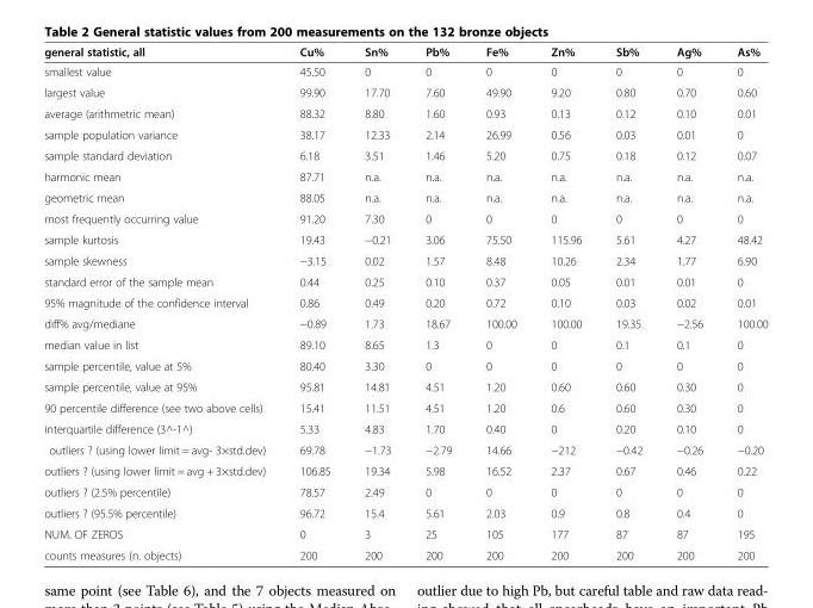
<table><thead><tr><td>general statistic, all</td><td>Cu%</td><td>Sn%</td><td>Pb%</td><td>Fe%</td><td>Zn%</td><td>Sb%</td><td>Ag%</td><td>As%</td></tr></thead><tbody><tr><td>smallest value</td><td>45.50</td><td>0</td><td>0</td><td>0</td><td>0</td><td>0</td><td>0</td><td>0</td></tr><tr><td>largest value</td><td>99.90</td><td>17.70</td><td>7.60</td><td>49.90</td><td>9.20</td><td>0.80</td><td>0.70</td><td>0.60</td></tr><tr><td>average (arithmetric mean)</td><td>88.32</td><td>8.80</td><td>1.60</td><td>0.93</td><td>0.13</td><td>0.12</td><td>0.10</td><td>0.01</td></tr><tr><td>sample population variance</td><td>38.17</td><td>12.33</td><td>2.14</td><td>26.99</td><td>0.56</td><td>0.03</td><td>0.01</td><td>0</td></tr><tr><td>sample standard deviation</td><td>6.18</td><td>3.51</td><td>1.46</td><td>5.20</td><td>0.75</td><td>0.18</td><td>0.12</td><td>0.07</td></tr><tr><td>harmonic mean</td><td>87.71</td><td>n.a.</td><td>n.a.</td><td>n.a.</td><td>n.a.</td><td>n.a.</td><td>n.a.</td><td>n.a.</td></tr><tr><td>geometric mean</td><td>88.05</td><td>n.a.</td><td>n.a.</td><td>n.a.</td><td>n.a.</td><td>n.a.</td><td>n.a.</td><td>n.a.</td></tr><tr><td>most frequently occurring value</td><td>91.20</td><td>7.30</td><td>0</td><td>0</td><td>0</td><td>0</td><td>0</td><td>0</td></tr><tr><td>sample kurtosis</td><td>19.43</td><td>−0.21</td><td>3.06</td><td>75.50</td><td>115.96</td><td>5.61</td><td>4.27</td><td>48.42</td></tr><tr><td>sample skewness</td><td>−3.15</td><td>0.02</td><td>1.57</td><td>8.48</td><td>10.26</td><td>2.34</td><td>1.77</td><td>6.90</td></tr><tr><td>standard error of the sample mean</td><td>0.44</td><td>0.25</td><td>0.10</td><td>0.37</td><td>0.05</td><td>0.01</td><td>0.01</td><td>0</td></tr><tr><td>95% magnitude of the confidence interval</td><td>0.86</td><td>0.49</td><td>0.20</td><td>0.72</td><td>0.10</td><td>0.03</td><td>0.02</td><td>0.01</td></tr><tr><td>diff% avg/mediane</td><td>−0.89</td><td>1.73</td><td>18.67</td><td>100.00</td><td>100.00</td><td>19.35</td><td>−2.56</td><td>100.00</td></tr><tr><td>median value in list</td><td>89.10</td><td>8.65</td><td>1.3</td><td>0</td><td>0</td><td>0.1</td><td>0.1</td><td>0</td></tr><tr><td>sample percentile, value at 5%</td><td>80.40</td><td>3.30</td><td>0</td><td>0</td><td>0</td><td>0</td><td>0</td><td>0</td></tr><tr><td>sample percentile, value at 95%</td><td>95.81</td><td>14.81</td><td>4.51</td><td>1.20</td><td>0.60</td><td>0.60</td><td>0.30</td><td>0</td></tr><tr><td>90 percentile difference (see two above cells)</td><td>15.41</td><td>11.51</td><td>4.51</td><td>1.20</td><td>0.6</td><td>0.60</td><td>0.30</td><td>0</td></tr><tr><td>interquartile difference (3^-1^)</td><td>5.33</td><td>4.83</td><td>1.70</td><td>0.40</td><td>0</td><td>0.20</td><td>0.10</td><td>0</td></tr><tr><td>outliers ? (using lower limit = avg- 3×std.dev)</td><td>69.78</td><td>−1.73</td><td>−2.79</td><td>14.66</td><td>−212</td><td>−0.42</td><td>−0.26</td><td>−0.20</td></tr><tr><td>outliers ? (using lower limit = avg + 3×std.dev)</td><td>106.85</td><td>19.34</td><td>5.98</td><td>16.52</td><td>2.37</td><td>0.67</td><td>0.46</td><td>0.22</td></tr><tr><td>outliers ? (2.5% percentile)</td><td>78.57</td><td>2.49</td><td>0</td><td>0</td><td>0</td><td>0</td><td>0</td><td>0</td></tr><tr><td>outliers ? (95.5% percentile)</td><td>96.72</td><td>15.4</td><td>5.61</td><td>2.03</td><td>0.9</td><td>0.8</td><td>0.4</td><td>0</td></tr><tr><td>NUM. OF ZEROS</td><td>0</td><td>3</td><td>25</td><td>105</td><td>177</td><td>87</td><td>87</td><td>195</td></tr><tr><td>counts measures (n. objects)</td><td>200</td><td>200</td><td>200</td><td>200</td><td>200</td><td>200</td><td>200</td><td>200</td></tr></tbody></table>